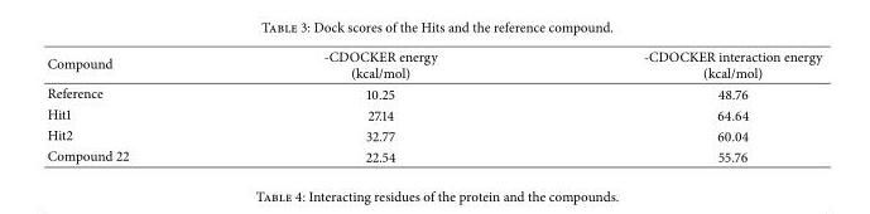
<table><thead><tr><td>Compound</td><td>-CDOCKER energy (kcal/mol)</td><td>-CDOCKER interaction energy (kcal/mol)</td></tr></thead><tbody><tr><td>Reference</td><td>10.25</td><td>48.76</td></tr><tr><td>Hit1</td><td>27.14</td><td>64.64</td></tr><tr><td>Hit2</td><td>32.77</td><td>60.04</td></tr><tr><td>Compound 22</td><td>22.54</td><td>55.76</td></tr></tbody></table>